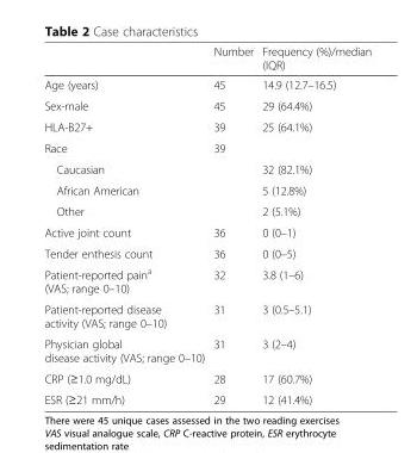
<table><thead><tr><td></td><td>Number</td><td>Frequency (%)/median (IQR)</td></tr></thead><tbody><tr><td>Age (years)</td><td>45</td><td>14.9 (12.7–16.5)</td></tr><tr><td>Sex-male</td><td>45</td><td>29 (64.4%)</td></tr><tr><td>HLA-B27+</td><td>39</td><td>25 (64.1%)</td></tr><tr><td>Race</td><td>39</td><td></td></tr><tr><td>Caucasian</td><td></td><td>32 (82.1%)</td></tr><tr><td>African American</td><td></td><td>5 (12.8%)</td></tr><tr><td>Other</td><td></td><td>2 (5.1%)</td></tr><tr><td>Active joint count</td><td>36</td><td>0 (0–1)</td></tr><tr><td>Tender enthesis count</td><td>36</td><td>0 (0–5)</td></tr><tr><td>Patient-reported pain<sup>a</sup> (VAS; range 0–10)</td><td>32</td><td>3.8 (1–6)</td></tr><tr><td>Patient-reported disease activity (VAS; range 0–10)</td><td>31</td><td>3 (0.5–5.1)</td></tr><tr><td>Physician global disease activity (VAS; range 0–10)</td><td>31</td><td>3 (2–4)</td></tr><tr><td>CRP (≥1.0 mg/dL)</td><td>28</td><td>17 (60.7%)</td></tr><tr><td>ESR (≥21 mm/h)</td><td>29</td><td>12 (41.4%)</td></tr></tbody></table>